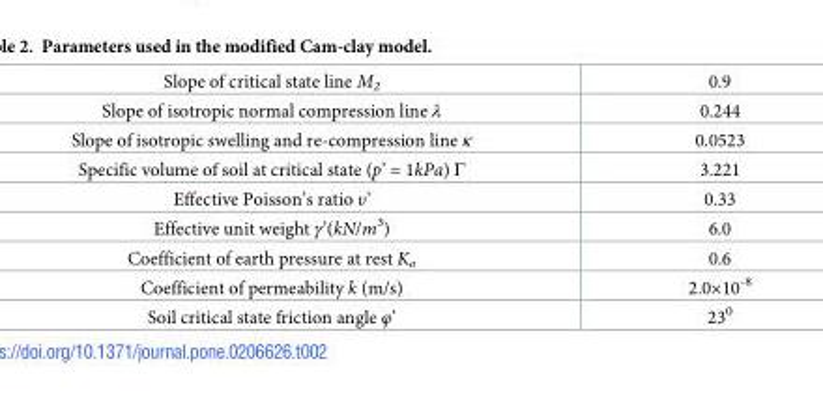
<table><tbody><tr><td>Slope of critical state line M<sub>2</sub></td><td>0.9</td></tr><tr><td>Slope of isotropic normal compression line λ</td><td>0.244</td></tr><tr><td>Slope of isotropic swelling and re-compression line κ</td><td>0.0523</td></tr><tr><td>Specific volume of soil at critical state (p’ = 1kPa) Γ</td><td>3.221</td></tr><tr><td>Effective Poisson’s ratio υ’</td><td>0.33</td></tr><tr><td>Effective unit weight γ’(kN/m<sup>3</sup>)</td><td>6.0</td></tr><tr><td>Coefficient of earth pressure at rest K<sub>o</sub></td><td>0.6</td></tr><tr><td>Coefficient of permeability k (m/s)</td><td>2.0×10<sup>-8</sup></td></tr><tr><td>Soil critical state friction angle φ’</td><td>23<sup>0</sup></td></tr></tbody></table>